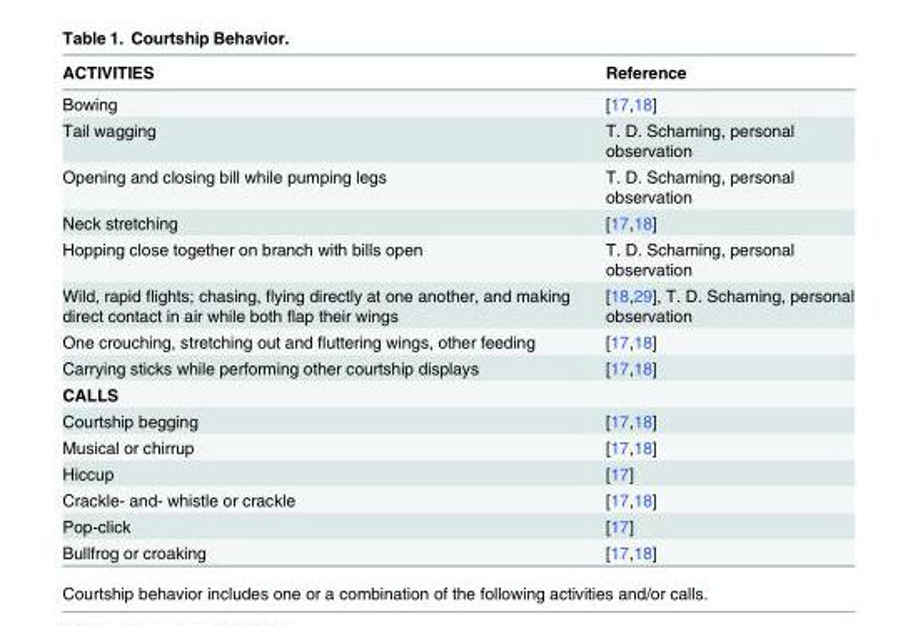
<table><thead><tr><td>ACTIVITIES</td><td>Reference</td></tr></thead><tbody><tr><td>Bowing</td><td>[17,18]</td></tr><tr><td>Tail wagging</td><td>T. D. Schaming, personal observation</td></tr><tr><td>Opening and closing bill while pumping legs</td><td>T. D. Schaming, personal observation</td></tr><tr><td>Neck stretching</td><td>[17,18]</td></tr><tr><td>Hopping close together on branch with bills open</td><td>T. D. Schaming, personal observation</td></tr><tr><td>Wild, rapid flights; chasing, flying directly at one another, and making direct contact in air while both flap their wings</td><td>[18,29], T. D. Schaming, personal observation</td></tr><tr><td>One crouching, stretching out and fluttering wings, other feeding</td><td>[17,18]</td></tr><tr><td>Carrying sticks while performing other courtship displays</td><td>[17,18]</td></tr><tr><td colspan="2">CALLS</td></tr><tr><td>Courtship begging</td><td>[17,18]</td></tr><tr><td>Musical or chirrup</td><td>[17,18]</td></tr><tr><td>Hiccup</td><td>[17]</td></tr><tr><td>Crackle- and- whistle or crackle</td><td>[17,18]</td></tr><tr><td>Pop-click</td><td>[17]</td></tr><tr><td>Bullfrog or croaking</td><td>[17,18]</td></tr></tbody></table>